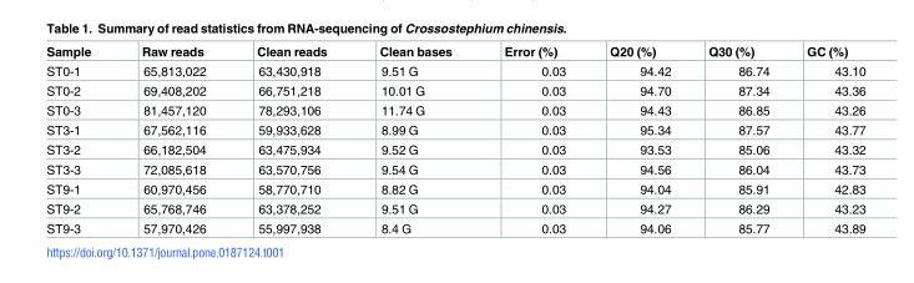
<table><thead><tr><td>Sample</td><td>Raw reads</td><td>Clean reads</td><td>Clean bases</td><td>Error (%)</td><td>Q20 (%)</td><td>Q30 (%)</td><td>GC (%)</td></tr></thead><tbody><tr><td>ST0-1</td><td>65,813,022</td><td>63,430,918</td><td>9.51 G</td><td>0.03</td><td>94.42</td><td>86.74</td><td>43.10</td></tr><tr><td>ST0-2</td><td>69,408,202</td><td>66,751,218</td><td>10.01 G</td><td>0.03</td><td>94.70</td><td>87.34</td><td>43.36</td></tr><tr><td>ST0-3</td><td>81,457,120</td><td>78,293,106</td><td>11.74 G</td><td>0.03</td><td>94.43</td><td>86.85</td><td>43.26</td></tr><tr><td>ST3-1</td><td>67,562,116</td><td>59,933,628</td><td>8.99 G</td><td>0.03</td><td>95.34</td><td>87.57</td><td>43.77</td></tr><tr><td>ST3-2</td><td>66,182,504</td><td>63,475,934</td><td>9.52 G</td><td>0.03</td><td>93.53</td><td>85.06</td><td>43.32</td></tr><tr><td>ST3-3</td><td>72,085,618</td><td>63,570,756</td><td>9.54 G</td><td>0.03</td><td>94.56</td><td>86.04</td><td>43.73</td></tr><tr><td>ST9-1</td><td>60,970,456</td><td>58,770,710</td><td>8.82 G</td><td>0.03</td><td>94.04</td><td>85.91</td><td>42.83</td></tr><tr><td>ST9-2</td><td>65,768,746</td><td>63,378,252</td><td>9.51 G</td><td>0.03</td><td>94.27</td><td>86.29</td><td>43.23</td></tr><tr><td>ST9-3</td><td>57,970,426</td><td>55,997,938</td><td>8.4 G</td><td>0.03</td><td>94.06</td><td>85.77</td><td>43.89</td></tr></tbody></table>